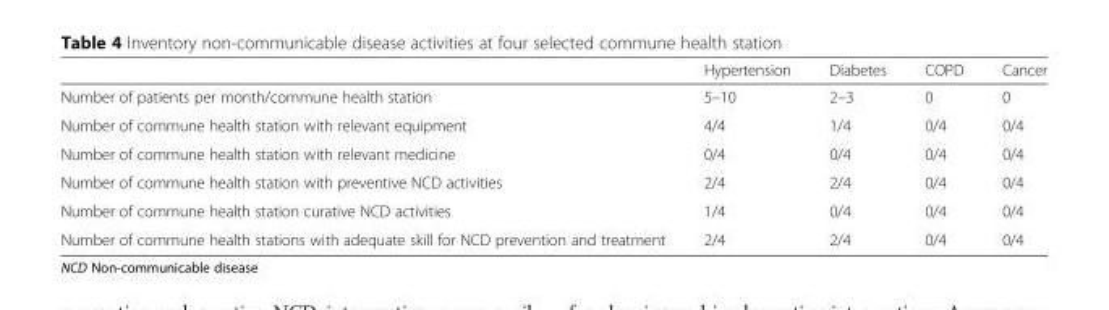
<table><thead><tr><td></td><td>Hypertension</td><td>Diabetes</td><td>COPD</td><td>Cancer</td></tr></thead><tbody><tr><td>Number of patients per month/commune health station</td><td>5–10</td><td>2–3</td><td>0</td><td>0</td></tr><tr><td>Number of commune health station with relevant equipment</td><td>4/4</td><td>1/4</td><td>0/4</td><td>0/4</td></tr><tr><td>Number of commune health station with relevant medicine</td><td>0/4</td><td>0/4</td><td>0/4</td><td>0/4</td></tr><tr><td>Number of commune health station with preventive NCD activities</td><td>2/4</td><td>2/4</td><td>0/4</td><td>0/4</td></tr><tr><td>Number of commune health station curative NCD activities</td><td>1/4</td><td>0/4</td><td>0/4</td><td>0/4</td></tr><tr><td>Number of commune health stations with adequate skill for NCD prevention and treatment</td><td>2/4</td><td>2/4</td><td>0/4</td><td>0/4</td></tr></tbody></table>